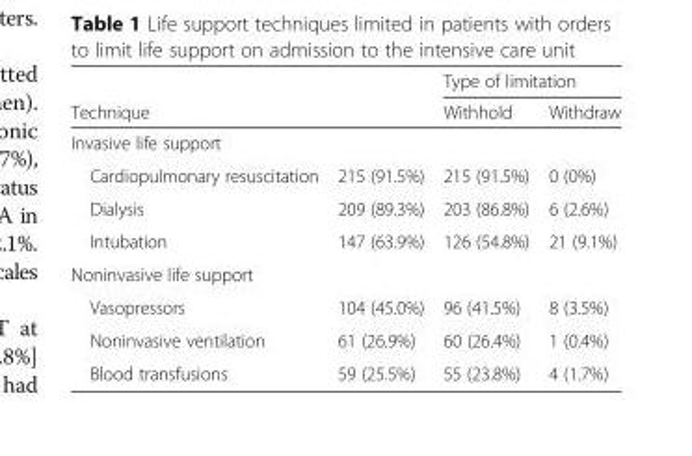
<table><thead><tr><td rowspan="2">Technique</td><td rowspan="2"></td><td colspan="2">Type of limitation</td></tr><tr><td>Withhold</td><td>Withdraw</td></tr></thead><tbody><tr><td colspan="4">Invasive life support</td></tr><tr><td>Cardiopulmonary resuscitation</td><td>215 (91.5%)</td><td>215 (91.5%)</td><td>0 (0%)</td></tr><tr><td>Dialysis</td><td>209 (89.3%)</td><td>203 (86.8%)</td><td>6 (2.6%)</td></tr><tr><td>Intubation</td><td>147 (63.9%)</td><td>126 (54.8%)</td><td>21 (9.1%)</td></tr><tr><td colspan="4">Noninvasive life support</td></tr><tr><td>Vasopressors</td><td>104 (45.0%)</td><td>96 (41.5%)</td><td>8 (3.5%)</td></tr><tr><td>Noninvasive ventilation</td><td>61 (26.9%)</td><td>60 (26.4%)</td><td>1 (0.4%)</td></tr><tr><td>Blood transfusions</td><td>59 (25.5%)</td><td>55 (23.8%)</td><td>4 (1.7%)</td></tr></tbody></table>